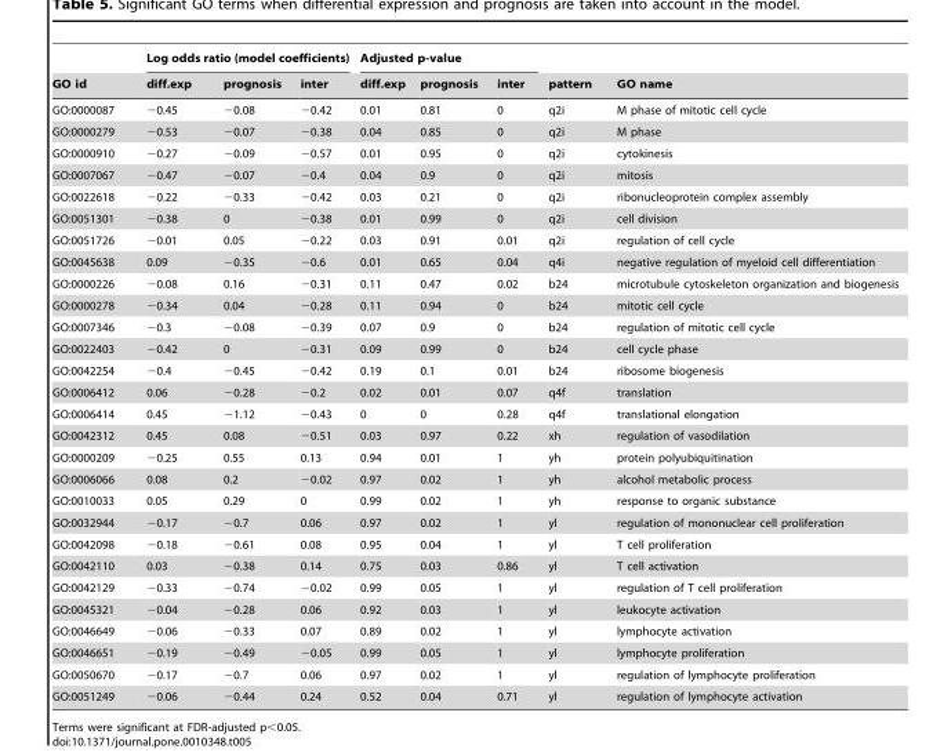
<table><thead><tr><td rowspan="2">GO id</td><td colspan="3">Log odds ratio (model coefficients)</td><td colspan="3">Adjusted p-value</td><td rowspan="2">pattern</td><td rowspan="2">GO name</td></tr><tr><td>diff.exp</td><td>prognosis</td><td>inter</td><td>diff.exp</td><td>prognosis</td><td>inter</td></tr></thead><tbody><tr><td>GO:0000087</td><td>−0.45</td><td>−0.08</td><td>−0.42</td><td>0.01</td><td>0.81</td><td>0</td><td>q2i</td><td>M phase of mitotic cell cycle</td></tr><tr><td>GO:0000279</td><td>−0.53</td><td>−0.07</td><td>−0.38</td><td>0.04</td><td>0.85</td><td>0</td><td>q2i</td><td>M phase</td></tr><tr><td>GO:0000910</td><td>−0.27</td><td>−0.09</td><td>−0.57</td><td>0.01</td><td>0.95</td><td>0</td><td>q2i</td><td>cytokinesis</td></tr><tr><td>GO:0007067</td><td>−0.47</td><td>−0.07</td><td>−0.4</td><td>0.04</td><td>0.9</td><td>0</td><td>q2i</td><td>mitosis</td></tr><tr><td>GO:0022618</td><td>−0.22</td><td>−0.33</td><td>−0.42</td><td>0.03</td><td>0.21</td><td>0</td><td>q2i</td><td>ribonucleoprotein complex assembly</td></tr><tr><td>GO:0051301</td><td>−0.38</td><td>0</td><td>−0.38</td><td>0.01</td><td>0.99</td><td>0</td><td>q2i</td><td>cell division</td></tr><tr><td>GO:0051726</td><td>−0.01</td><td>0.05</td><td>−0.22</td><td>0.03</td><td>0.91</td><td>0.01</td><td>q2i</td><td>regulation of cell cycle</td></tr><tr><td>GO:0045638</td><td>0.09</td><td>−0.35</td><td>−0.6</td><td>0.01</td><td>0.65</td><td>0.04</td><td>q4i</td><td>negative regulation of myeloid cell differentiation</td></tr><tr><td>GO:0000226</td><td>−0.08</td><td>0.16</td><td>−0.31</td><td>0.11</td><td>0.47</td><td>0.02</td><td>b24</td><td>microtubule cytoskeleton organization and biogenesis</td></tr><tr><td>GO:0000278</td><td>−0.34</td><td>0.04</td><td>−0.28</td><td>0.11</td><td>0.94</td><td>0</td><td>b24</td><td>mitotic cell cycle</td></tr><tr><td>GO:0007346</td><td>−0.3</td><td>−0.08</td><td>−0.39</td><td>0.07</td><td>0.9</td><td>0</td><td>b24</td><td>regulation of mitotic cell cycle</td></tr><tr><td>GO:0022403</td><td>−0.42</td><td>0</td><td>−0.31</td><td>0.09</td><td>0.99</td><td>0</td><td>b24</td><td>cell cycle phase</td></tr><tr><td>GO:0042254</td><td>−0.4</td><td>−0.45</td><td>−0.42</td><td>0.19</td><td>0.1</td><td>0.01</td><td>b24</td><td>ribosome biogenesis</td></tr><tr><td>GO:0006412</td><td>0.06</td><td>−0.28</td><td>−0.2</td><td>0.02</td><td>0.01</td><td>0.07</td><td>q4f</td><td>translation</td></tr><tr><td>GO:0006414</td><td>0.45</td><td>−1.12</td><td>−0.43</td><td>0</td><td>0</td><td>0.28</td><td>q4f</td><td>translational elongation</td></tr><tr><td>GO:0042312</td><td>0.45</td><td>0.08</td><td>−0.51</td><td>0.03</td><td>0.97</td><td>0.22</td><td>xh</td><td>regulation of vasodilation</td></tr><tr><td>GO:0000209</td><td>−0.25</td><td>0.55</td><td>0.13</td><td>0.94</td><td>0.01</td><td>1</td><td>yh</td><td>protein polyubiquitination</td></tr><tr><td>GO:0006066</td><td>0.08</td><td>0.2</td><td>−0.02</td><td>0.97</td><td>0.02</td><td>1</td><td>yh</td><td>alcohol metabolic process</td></tr><tr><td>GO:0010033</td><td>0.05</td><td>0.29</td><td>0</td><td>0.99</td><td>0.02</td><td>1</td><td>yh</td><td>response to organic substance</td></tr><tr><td>GO:0032944</td><td>−0.17</td><td>−0.7</td><td>0.06</td><td>0.97</td><td>0.02</td><td>1</td><td>yl</td><td>regulation of mononuclear cell proliferation</td></tr><tr><td>GO:0042098</td><td>−0.18</td><td>−0.61</td><td>0.08</td><td>0.95</td><td>0.04</td><td>1</td><td>yl</td><td>T cell proliferation</td></tr><tr><td>GO:0042110</td><td>0.03</td><td>−0.38</td><td>0.14</td><td>0.75</td><td>0.03</td><td>0.86</td><td>yl</td><td>T cell activation</td></tr><tr><td>GO:0042129</td><td>−0.33</td><td>−0.74</td><td>−0.02</td><td>0.99</td><td>0.05</td><td>1</td><td>yl</td><td>regulation of T cell proliferation</td></tr><tr><td>GO:0045321</td><td>−0.04</td><td>−0.28</td><td>0.06</td><td>0.92</td><td>0.03</td><td>1</td><td>yl</td><td>leukocyte activation</td></tr><tr><td>GO:0046649</td><td>−0.06</td><td>−0.33</td><td>0.07</td><td>0.89</td><td>0.02</td><td>1</td><td>yl</td><td>lymphocyte activation</td></tr><tr><td>GO:0046651</td><td>−0.19</td><td>−0.49</td><td>−0.05</td><td>0.99</td><td>0.05</td><td>1</td><td>yl</td><td>lymphocyte proliferation</td></tr><tr><td>GO:0050670</td><td>−0.17</td><td>−0.7</td><td>0.06</td><td>0.97</td><td>0.02</td><td>1</td><td>yl</td><td>regulation of lymphocyte proliferation</td></tr><tr><td>GO:0051249</td><td>−0.06</td><td>−0.44</td><td>0.24</td><td>0.52</td><td>0.04</td><td>0.71</td><td>yl</td><td>regulation of lymphocyte activation</td></tr></tbody></table>